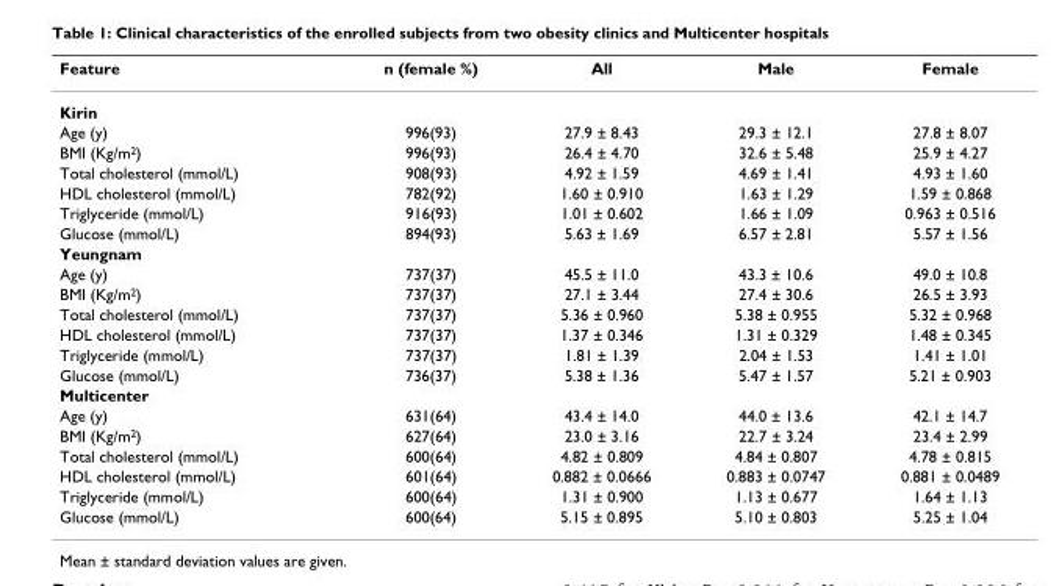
<table><thead><tr><td>Feature</td><td>n (female %)</td><td>All</td><td>Male</td><td>Female</td></tr></thead><tbody><tr><td colspan="5">Kirin</td></tr><tr><td>Age (y)</td><td>996(93)</td><td>27.9 ± 8.43</td><td>29.3 ± 12.1</td><td>27.8 ± 8.07</td></tr><tr><td>BMI (Kg/m<sup>2</sup>)</td><td>996(93)</td><td>26.4 ± 4.70</td><td>32.6 ± 5.48</td><td>25.9 ± 4.27</td></tr><tr><td>Total cholesterol (mmol/L)</td><td>908(93)</td><td>4.92 ± 1.59</td><td>4.69 ± 1.41</td><td>4.93 ± 1.60</td></tr><tr><td>HDL cholesterol (mmol/L)</td><td>782(92)</td><td>1.60 ± 0.910</td><td>1.63 ± 1.29</td><td>1.59 ± 0.868</td></tr><tr><td>Triglyceride (mmol/L)</td><td>916(93)</td><td>1.01 ± 0.602</td><td>1.66 ± 1.09</td><td>0.963 ± 0.516</td></tr><tr><td>Glucose (mmol/L)</td><td>894(93)</td><td>5.63 ± 1.69</td><td>6.57 ± 2.81</td><td>5.57 ± 1.56</td></tr><tr><td colspan="5">Yeungnam</td></tr><tr><td>Age (y)</td><td>737(37)</td><td>45.5 ± 11.0</td><td>43.3 ± 10.6</td><td>49.0 ± 10.8</td></tr><tr><td>BMI (Kg/m<sup>2</sup>)</td><td>737(37)</td><td>27.1 ± 3.44</td><td>27.4 ± 30.6</td><td>26.5 ± 3.93</td></tr><tr><td>Total cholesterol (mmol/L)</td><td>737(37)</td><td>5.36 ± 0.960</td><td>5.38 ± 0.955</td><td>5.32 ± 0.968</td></tr><tr><td>HDL cholesterol (mmol/L)</td><td>737(37)</td><td>1.37 ± 0.346</td><td>1.31 ± 0.329</td><td>1.48 ± 0.345</td></tr><tr><td>Triglyceride (mmol/L)</td><td>737(37)</td><td>1.81 ± 1.39</td><td>2.04 ± 1.53</td><td>1.41 ± 1.01</td></tr><tr><td>Glucose (mmol/L)</td><td>736(37)</td><td>5.38 ± 1.36</td><td>5.47 ± 1.57</td><td>5.21 ± 0.903</td></tr><tr><td colspan="5">Multicenter</td></tr><tr><td>Age (y)</td><td>631(64)</td><td>43.4 ± 14.0</td><td>44.0 ± 13.6</td><td>42.1 ± 14.7</td></tr><tr><td>BMI (Kg/m<sup>2</sup>)</td><td>627(64)</td><td>23.0 ± 3.16</td><td>22.7 ± 3.24</td><td>23.4 ± 2.99</td></tr><tr><td>Total cholesterol (mmol/L)</td><td>600(64)</td><td>4.82 ± 0.809</td><td>4.84 ± 0.807</td><td>4.78 ± 0.815</td></tr><tr><td>HDL cholesterol (mmol/L)</td><td>601(64)</td><td>0.882 ± 0.0666</td><td>0.883 ± 0.0747</td><td>0.881 ± 0.0489</td></tr><tr><td>Triglyceride (mmol/L)</td><td>600(64)</td><td>1.31 ± 0.900</td><td>1.13 ± 0.677</td><td>1.64 ± 1.13</td></tr><tr><td>Glucose (mmol/L)</td><td>600(64)</td><td>5.15 ± 0.895</td><td>5.10 ± 0.803</td><td>5.25 ± 1.04</td></tr></tbody></table>